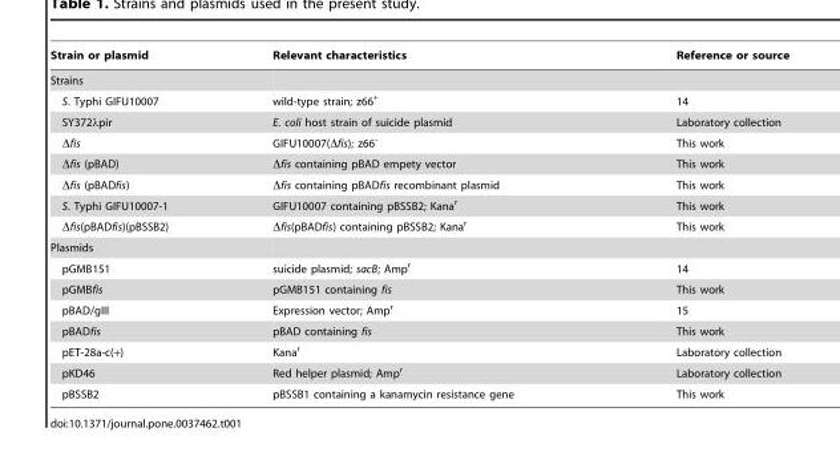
<table><thead><tr><td>Strain or plasmid</td><td>Relevant characteristics</td><td>Reference or source</td></tr></thead><tbody><tr><td colspan="3">Strains</td></tr><tr><td>S. Typhi GIFU10007</td><td>wild-type strain; z66<sup>+</sup></td><td>14</td></tr><tr><td>SY372λpir</td><td>E. coli host strain of suicide plasmid</td><td>Laboratory collection</td></tr><tr><td>Δfis</td><td>GIFU10007(Δfis); z66<sup>-</sup></td><td>This work</td></tr><tr><td>Δfis (pBAD)</td><td>Δfis containing pBAD empety vector</td><td>This work</td></tr><tr><td>Δfis (pBADfis)</td><td>Δfis containing pBADfis recombinant plasmid</td><td>This work</td></tr><tr><td>S. Typhi GIFU10007-1</td><td>GIFU10007 containing pBSSB2; Kana<sup>r</sup></td><td>This work</td></tr><tr><td>Δfis(pBADfis)(pBSSB2)</td><td>Δfis(pBADfis) containing pBSSB2; Kana<sup>r</sup></td><td>This work</td></tr><tr><td colspan="3">Plasmids</td></tr><tr><td>pGMB151</td><td>suicide plasmid; sacB; Amp<sup>r</sup></td><td>14</td></tr><tr><td>pGMBfis</td><td>pGMB151 containing fis</td><td>This work</td></tr><tr><td>pBAD/gIII</td><td>Expression vector; Amp<sup>r</sup></td><td>15</td></tr><tr><td>pBADfis</td><td>pBAD containing fis</td><td>This work</td></tr><tr><td>pET-28a-c(+)</td><td>Kana<sup>r</sup></td><td>Laboratory collection</td></tr><tr><td>pKD46</td><td>Red helper plasmid; Amp<sup>r</sup></td><td>Laboratory collection</td></tr><tr><td>pBSSB2</td><td>pBSSB1 containing a kanamycin resistance gene</td><td>This work</td></tr></tbody></table>